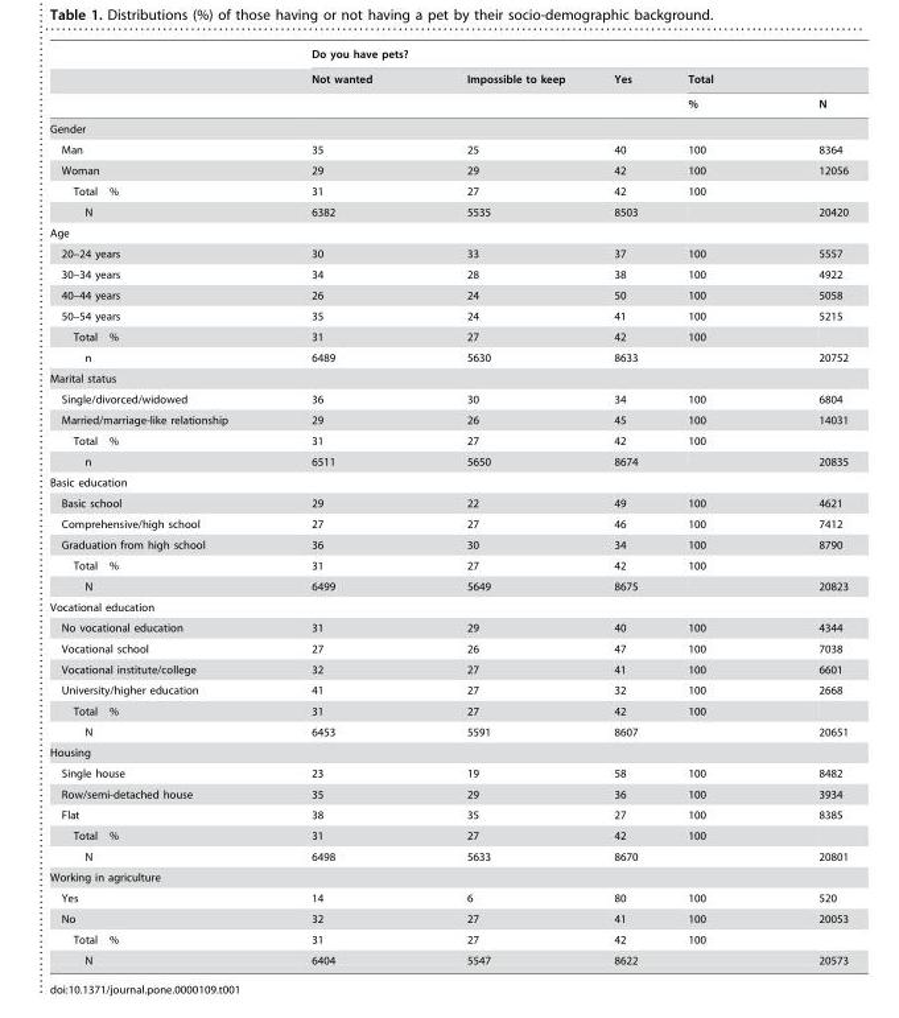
<table><thead><tr><td rowspan="3"></td><td colspan="5">Do you have pets?</td></tr><tr><td rowspan="2">Not wanted</td><td rowspan="2">Impossible to keep</td><td rowspan="2">Yes</td><td colspan="2">Total</td></tr><tr><td>%</td><td>N</td></tr></thead><tbody><tr><td colspan="6">Gender</td></tr><tr><td>Man</td><td>35</td><td>25</td><td>40</td><td>100</td><td>8364</td></tr><tr><td>Woman</td><td>29</td><td>29</td><td>42</td><td>100</td><td>12056</td></tr><tr><td>Total %</td><td>31</td><td>27</td><td>42</td><td>100</td><td></td></tr><tr><td>N</td><td>6382</td><td>5535</td><td>8503</td><td></td><td>20420</td></tr><tr><td colspan="6">Age</td></tr><tr><td>20–24 years</td><td>30</td><td>33</td><td>37</td><td>100</td><td>5557</td></tr><tr><td>30–34 years</td><td>34</td><td>28</td><td>38</td><td>100</td><td>4922</td></tr><tr><td>40–44 years</td><td>26</td><td>24</td><td>50</td><td>100</td><td>5058</td></tr><tr><td>50–54 years</td><td>35</td><td>24</td><td>41</td><td>100</td><td>5215</td></tr><tr><td>Total %</td><td>31</td><td>27</td><td>42</td><td>100</td><td></td></tr><tr><td>n</td><td>6489</td><td>5630</td><td>8633</td><td></td><td>20752</td></tr><tr><td colspan="6">Marital status</td></tr><tr><td>Single/divorced/widowed</td><td>36</td><td>30</td><td>34</td><td>100</td><td>6804</td></tr><tr><td>Married/marriage-like relationship</td><td>29</td><td>26</td><td>45</td><td>100</td><td>14031</td></tr><tr><td>Total %</td><td>31</td><td>27</td><td>42</td><td>100</td><td></td></tr><tr><td>n</td><td>6511</td><td>5650</td><td>8674</td><td></td><td>20835</td></tr><tr><td colspan="6">Basic education</td></tr><tr><td>Basic school</td><td>29</td><td>22</td><td>49</td><td>100</td><td>4621</td></tr><tr><td>Comprehensive/high school</td><td>27</td><td>27</td><td>46</td><td>100</td><td>7412</td></tr><tr><td>Graduation from high school</td><td>36</td><td>30</td><td>34</td><td>100</td><td>8790</td></tr><tr><td>Total %</td><td>31</td><td>27</td><td>42</td><td>100</td><td></td></tr><tr><td>N</td><td>6499</td><td>5649</td><td>8675</td><td></td><td>20823</td></tr><tr><td colspan="6">Vocational education</td></tr><tr><td>No vocational education</td><td>31</td><td>29</td><td>40</td><td>100</td><td>4344</td></tr><tr><td>Vocational school</td><td>27</td><td>26</td><td>47</td><td>100</td><td>7038</td></tr><tr><td>Vocational institute/college</td><td>32</td><td>27</td><td>41</td><td>100</td><td>6601</td></tr><tr><td>University/higher education</td><td>41</td><td>27</td><td>32</td><td>100</td><td>2668</td></tr><tr><td>Total %</td><td>31</td><td>27</td><td>42</td><td>100</td><td></td></tr><tr><td>N</td><td>6453</td><td>5591</td><td>8607</td><td></td><td>20651</td></tr><tr><td colspan="6">Housing</td></tr><tr><td>Single house</td><td>23</td><td>19</td><td>58</td><td>100</td><td>8482</td></tr><tr><td>Row/semi-detached house</td><td>35</td><td>29</td><td>36</td><td>100</td><td>3934</td></tr><tr><td>Flat</td><td>38</td><td>35</td><td>27</td><td>100</td><td>8385</td></tr><tr><td>Total %</td><td>31</td><td>27</td><td>42</td><td>100</td><td></td></tr><tr><td>N</td><td>6498</td><td>5633</td><td>8670</td><td></td><td>20801</td></tr><tr><td colspan="6">Working in agriculture</td></tr><tr><td>Yes</td><td>14</td><td>6</td><td>80</td><td>100</td><td>520</td></tr><tr><td>No</td><td>32</td><td>27</td><td>41</td><td>100</td><td>20053</td></tr><tr><td>Total %</td><td>31</td><td>27</td><td>42</td><td>100</td><td></td></tr><tr><td>N</td><td>6404</td><td>5547</td><td>8622</td><td></td><td>20573</td></tr></tbody></table>